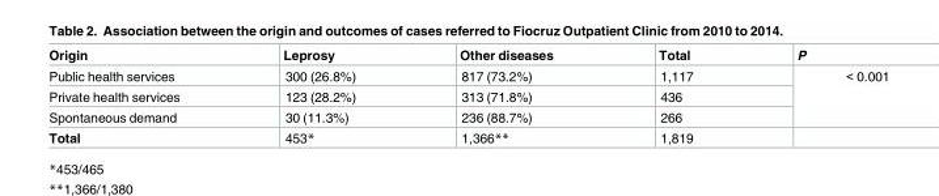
<table><thead><tr><td>Origin</td><td>Leprosy</td><td>Other diseases</td><td>Total</td><td>P</td></tr></thead><tbody><tr><td>Public health services</td><td>300 (26.8%)</td><td>817 (73.2%)</td><td>1,117</td><td rowspan="3">&lt; 0.001</td></tr><tr><td>Private health services</td><td>123 (28.2%)</td><td>313 (71.8%)</td><td>436</td></tr><tr><td>Spontaneous demand</td><td>30 (11.3%)</td><td>236 (88.7%)</td><td>266</td></tr><tr><td>Total</td><td>453*</td><td>1,366**</td><td>1,819</td><td></td></tr></tbody></table>